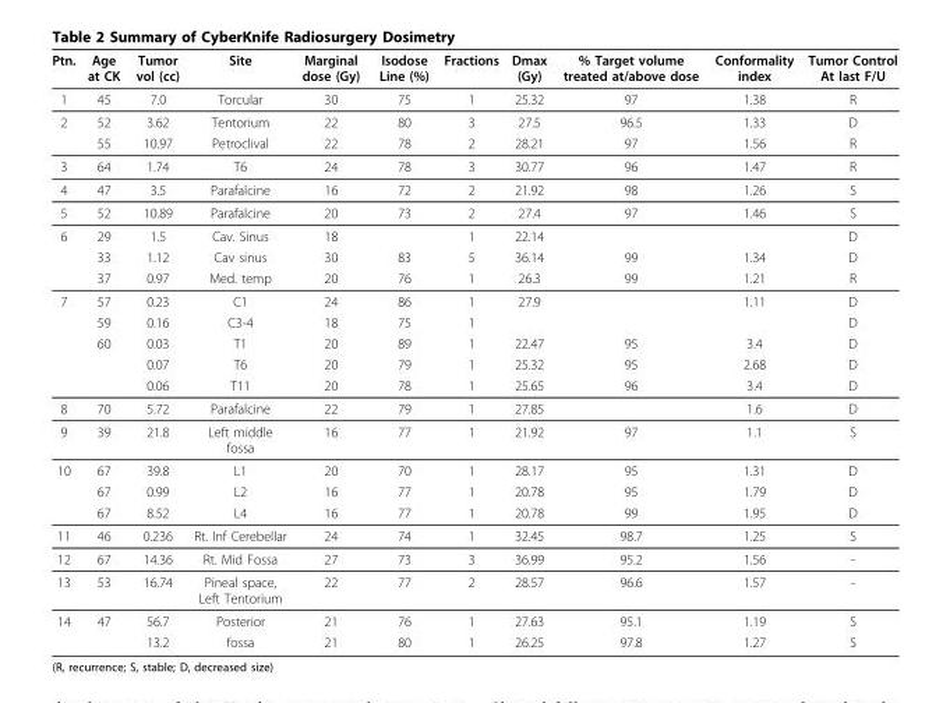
<table><thead><tr><td>Ptn.</td><td>Age at CK</td><td>Tumor vol (cc)</td><td>Site</td><td>Marginal dose (Gy)</td><td>Isodose Line (%)</td><td>Fractions</td><td>Dmax (Gy)</td><td>% Target volume treated at/above dose</td><td>Conformality index</td><td>Tumor Control At last F/U</td></tr></thead><tbody><tr><td>1</td><td>45</td><td>7.0</td><td>Torcular</td><td>30</td><td>75</td><td>1</td><td>25.32</td><td>97</td><td>1.38</td><td>R</td></tr><tr><td rowspan="2">2</td><td>52</td><td>3.62</td><td>Tentorium</td><td>22</td><td>80</td><td>3</td><td>27.5</td><td>96.5</td><td>1.33</td><td>D</td></tr><tr><td>55</td><td>10.97</td><td>Petroclival</td><td>22</td><td>78</td><td>2</td><td>28.21</td><td>97</td><td>1.56</td><td>R</td></tr><tr><td>3</td><td>64</td><td>1.74</td><td>T6</td><td>24</td><td>78</td><td>3</td><td>30.77</td><td>96</td><td>1.47</td><td>R</td></tr><tr><td>4</td><td>47</td><td>3.5</td><td>Parafalcine</td><td>16</td><td>72</td><td>2</td><td>21.92</td><td>98</td><td>1.26</td><td>S</td></tr><tr><td>5</td><td>52</td><td>10.89</td><td>Parafalcine</td><td>20</td><td>73</td><td>2</td><td>27.4</td><td>97</td><td>1.46</td><td>S</td></tr><tr><td rowspan="3">6</td><td>29</td><td>1.5</td><td>Cav. Sinus</td><td>18</td><td></td><td>1</td><td>22.14</td><td></td><td></td><td>D</td></tr><tr><td>33</td><td>1.12</td><td>Cav sinus</td><td>30</td><td>83</td><td>5</td><td>36.14</td><td>99</td><td>1.34</td><td>D</td></tr><tr><td>37</td><td>0.97</td><td>Med. temp</td><td>20</td><td>76</td><td>1</td><td>26.3</td><td>99</td><td>1.21</td><td>R</td></tr><tr><td rowspan="5">7</td><td>57</td><td>0.23</td><td>C1</td><td>24</td><td>86</td><td>1</td><td>27.9</td><td></td><td>1.11</td><td>D</td></tr><tr><td>59</td><td>0.16</td><td>C3-4</td><td>18</td><td>75</td><td>1</td><td></td><td></td><td></td><td>D</td></tr><tr><td>60</td><td>0.03</td><td>T1</td><td>20</td><td>89</td><td>1</td><td>22.47</td><td>95</td><td>3.4</td><td>D</td></tr><tr><td></td><td>0.07</td><td>T6</td><td>20</td><td>79</td><td>1</td><td>25.32</td><td>95</td><td>2.68</td><td>D</td></tr><tr><td></td><td>0.06</td><td>T11</td><td>20</td><td>78</td><td>1</td><td>25.65</td><td>96</td><td>3.4</td><td>D</td></tr><tr><td>8</td><td>70</td><td>5.72</td><td>Parafalcine</td><td>22</td><td>79</td><td>1</td><td>27.85</td><td></td><td>1.6</td><td>D</td></tr><tr><td>9</td><td>39</td><td>21.8</td><td>Left middle fossa</td><td>16</td><td>77</td><td>1</td><td>21.92</td><td>97</td><td>1.1</td><td>S</td></tr><tr><td rowspan="3">10</td><td>67</td><td>39.8</td><td>L1</td><td>20</td><td>70</td><td>1</td><td>28.17</td><td>95</td><td>1.31</td><td>D</td></tr><tr><td>67</td><td>0.99</td><td>L2</td><td>16</td><td>77</td><td>1</td><td>20.78</td><td>95</td><td>1.79</td><td>D</td></tr><tr><td>67</td><td>8.52</td><td>L4</td><td>16</td><td>77</td><td>1</td><td>20.78</td><td>99</td><td>1.95</td><td>D</td></tr><tr><td>11</td><td>46</td><td>0.236</td><td>Rt. Inf Cerebellar</td><td>24</td><td>74</td><td>1</td><td>32.45</td><td>98.7</td><td>1.25</td><td>S</td></tr><tr><td>12</td><td>67</td><td>14.36</td><td>Rt. Mid Fossa</td><td>27</td><td>73</td><td>3</td><td>36.99</td><td>95.2</td><td>1.56</td><td>-</td></tr><tr><td>13</td><td>53</td><td>16.74</td><td>Pineal space, Left Tentorium</td><td>22</td><td>77</td><td>2</td><td>28.57</td><td>96.6</td><td>1.57</td><td>-</td></tr><tr><td rowspan="2">14</td><td>47</td><td>56.7</td><td>Posterior</td><td>21</td><td>76</td><td>1</td><td>27.63</td><td>95.1</td><td>1.19</td><td>S</td></tr><tr><td></td><td>13.2</td><td>fossa</td><td>21</td><td>80</td><td>1</td><td>26.25</td><td>97.8</td><td>1.27</td><td>S</td></tr></tbody></table>